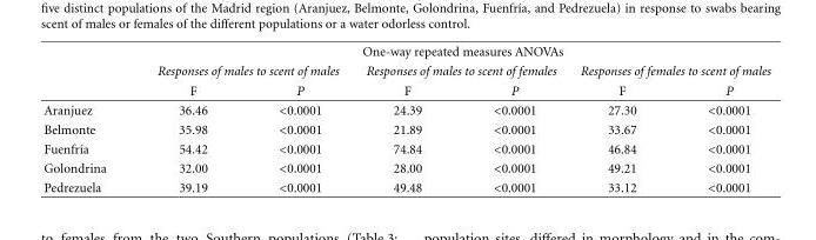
<table><thead><tr><td rowspan="3"></td><td colspan="6">One-way repeated measures ANOVAs</td></tr><tr><td colspan="2">Responses of males to scent of males</td><td colspan="2">Responses of males to scent of females</td><td colspan="2">Responses of females to scent of males</td></tr><tr><td>F</td><td>P</td><td>F</td><td>P</td><td>F</td><td>P</td></tr></thead><tbody><tr><td>Aranjuez</td><td>36.46</td><td>&lt;0.0001</td><td>24.39</td><td>&lt;0.0001</td><td>27.30</td><td>&lt;0.0001</td></tr><tr><td>Belmonte</td><td>35.98</td><td>&lt;0.0001</td><td>21.89</td><td>&lt;0.0001</td><td>33.67</td><td>&lt;0.0001</td></tr><tr><td>Fuenfr´ıa</td><td>54.42</td><td>&lt;0.0001</td><td>74.84</td><td>&lt;0.0001</td><td>46.84</td><td>&lt;0.0001</td></tr><tr><td>Golondrina</td><td>32.00</td><td>&lt;0.0001</td><td>28.00</td><td>&lt;0.0001</td><td>49.21</td><td>&lt;0.0001</td></tr><tr><td>Pedrezuela</td><td>39.19</td><td>&lt;0.0001</td><td>49.48</td><td>&lt;0.0001</td><td>33.12</td><td>&lt;0.0001</td></tr></tbody></table>